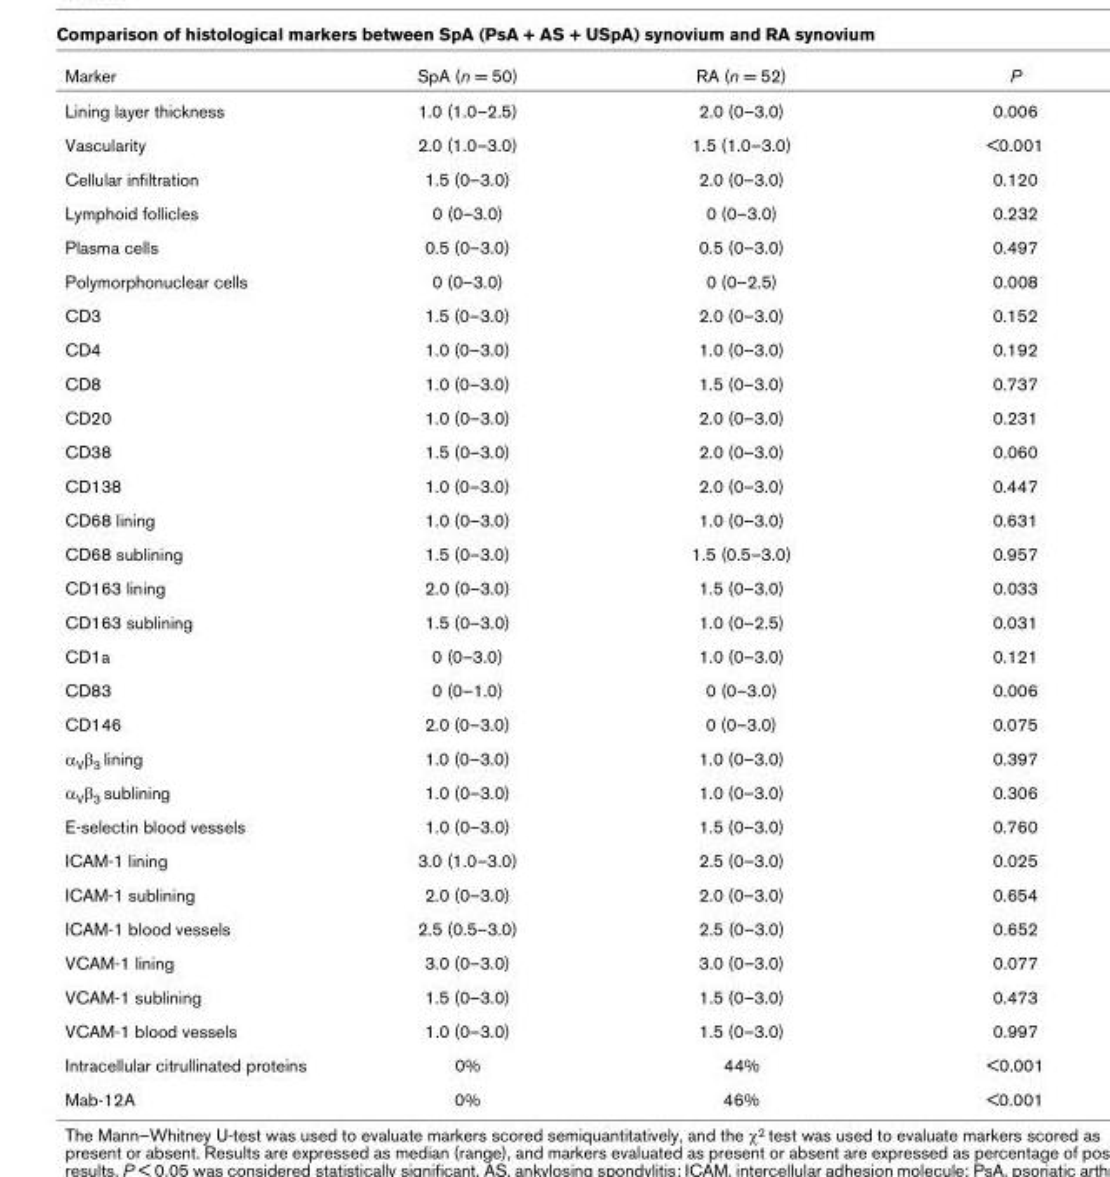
<table><thead><tr><td>Marker</td><td>SpA (n = 50)</td><td>RA (n = 52)</td><td>P</td></tr></thead><tbody><tr><td>Lining layer thickness</td><td>1.0 (1.0–2.5)</td><td>2.0 (0–3.0)</td><td>0.006</td></tr><tr><td>Vascularity</td><td>2.0 (1.0–3.0)</td><td>1.5 (1.0–3.0)</td><td>&lt;0.001</td></tr><tr><td>Cellular infiltration</td><td>1.5 (0–3.0)</td><td>2.0 (0–3.0)</td><td>0.120</td></tr><tr><td>Lymphoid follicles</td><td>0 (0–3.0)</td><td>0 (0–3.0)</td><td>0.232</td></tr><tr><td>Plasma cells</td><td>0.5 (0–3.0)</td><td>0.5 (0–3.0)</td><td>0.497</td></tr><tr><td>Polymorphonuclear cells</td><td>0 (0–3.0)</td><td>0 (0–2.5)</td><td>0.008</td></tr><tr><td>CD3</td><td>1.5 (0–3.0)</td><td>2.0 (0–3.0)</td><td>0.152</td></tr><tr><td>CD4</td><td>1.0 (0–3.0)</td><td>1.0 (0–3.0)</td><td>0.192</td></tr><tr><td>CD8</td><td>1.0 (0–3.0)</td><td>1.5 (0–3.0)</td><td>0.737</td></tr><tr><td>CD20</td><td>1.0 (0–3.0)</td><td>2.0 (0–3.0)</td><td>0.231</td></tr><tr><td>CD38</td><td>1.5 (0–3.0)</td><td>2.0 (0–3.0)</td><td>0.060</td></tr><tr><td>CD138</td><td>1.0 (0–3.0)</td><td>2.0 (0–3.0)</td><td>0.447</td></tr><tr><td>CD68 lining</td><td>1.0 (0–3.0)</td><td>1.0 (0–3.0)</td><td>0.631</td></tr><tr><td>CD68 sublining</td><td>1.5 (0–3.0)</td><td>1.5 (0.5–3.0)</td><td>0.957</td></tr><tr><td>CD163 lining</td><td>2.0 (0–3.0)</td><td>1.5 (0–3.0)</td><td>0.033</td></tr><tr><td>CD163 sublining</td><td>1.5 (0–3.0)</td><td>1.0 (0–2.5)</td><td>0.031</td></tr><tr><td>CD1a</td><td>0 (0–3.0)</td><td>1.0 (0–3.0)</td><td>0.121</td></tr><tr><td>CD83</td><td>0 (0–1.0)</td><td>0 (0–3.0)</td><td>0.006</td></tr><tr><td>CD146</td><td>2.0 (0–3.0)</td><td>0 (0–3.0)</td><td>0.075</td></tr><tr><td>αVβ3 lining</td><td>1.0 (0–3.0)</td><td>1.0 (0–3.0)</td><td>0.397</td></tr><tr><td>αVβ3 sublining</td><td>1.0 (0–3.0)</td><td>1.0 (0–3.0)</td><td>0.306</td></tr><tr><td>E-selectin blood vessels</td><td>1.0 (0–3.0)</td><td>1.5 (0–3.0)</td><td>0.760</td></tr><tr><td>ICAM-1 lining</td><td>3.0 (1.0–3.0)</td><td>2.5 (0–3.0)</td><td>0.025</td></tr><tr><td>ICAM-1 sublining</td><td>2.0 (0–3.0)</td><td>2.0 (0–3.0)</td><td>0.654</td></tr><tr><td>ICAM-1 blood vessels</td><td>2.5 (0.5–3.0)</td><td>2.5 (0–3.0)</td><td>0.652</td></tr><tr><td>VCAM-1 lining</td><td>3.0 (0–3.0)</td><td>3.0 (0–3.0)</td><td>0.077</td></tr><tr><td>VCAM-1 sublining</td><td>1.5 (0–3.0)</td><td>1.5 (0–3.0)</td><td>0.473</td></tr><tr><td>VCAM-1 blood vessels</td><td>1.0 (0–3.0)</td><td>1.5 (0–3.0)</td><td>0.997</td></tr><tr><td>Intracellular citrullinated proteins</td><td>0%</td><td>44%</td><td>&lt;0.001</td></tr><tr><td>Mab-12A</td><td>0%</td><td>46%</td><td>&lt;0.001</td></tr></tbody></table>